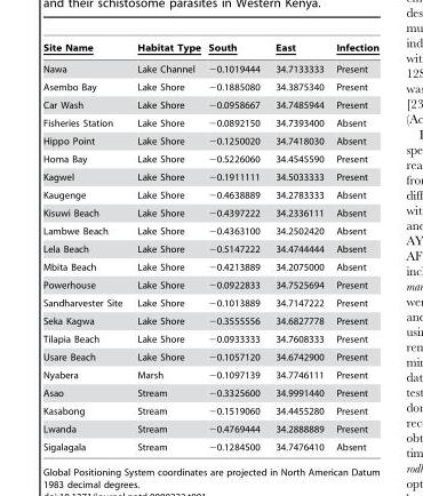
<table><thead><tr><td>Site Name</td><td>Habitat Type</td><td>South</td><td>East</td><td>Infection</td></tr></thead><tbody><tr><td>Nawa</td><td>Lake Channel</td><td>−0.1019444</td><td>34.7133333</td><td>Present</td></tr><tr><td>Asembo Bay</td><td>Lake Shore</td><td>−0.1885080</td><td>34.3875340</td><td>Present</td></tr><tr><td>Car Wash</td><td>Lake Shore</td><td>−0.0958667</td><td>34.7485944</td><td>Present</td></tr><tr><td>Fisheries Station</td><td>Lake Shore</td><td>−0.0892150</td><td>34.7393400</td><td>Absent</td></tr><tr><td>Hippo Point</td><td>Lake Shore</td><td>−0.1250020</td><td>34.7418030</td><td>Absent</td></tr><tr><td>Homa Bay</td><td>Lake Shore</td><td>−0.5226060</td><td>34.4545590</td><td>Present</td></tr><tr><td>Kagwel</td><td>Lake Shore</td><td>−0.1911111</td><td>34.5033333</td><td>Present</td></tr><tr><td>Kaugenge</td><td>Lake Shore</td><td>−0.4638889</td><td>34.2783333</td><td>Absent</td></tr><tr><td>Kisuwi Beach</td><td>Lake Shore</td><td>−0.4397222</td><td>34.2336111</td><td>Absent</td></tr><tr><td>Lambwe Beach</td><td>Lake Shore</td><td>−0.4363100</td><td>34.2502420</td><td>Absent</td></tr><tr><td>Lela Beach</td><td>Lake Shore</td><td>−0.5147222</td><td>34.4744444</td><td>Absent</td></tr><tr><td>Mbita Beach</td><td>Lake Shore</td><td>−0.4213889</td><td>34.2075000</td><td>Absent</td></tr><tr><td>Powerhouse</td><td>Lake Shore</td><td>−0.0922833</td><td>34.7525694</td><td>Present</td></tr><tr><td>Sandharvester Site</td><td>Lake Shore</td><td>−0.1013889</td><td>34.7147222</td><td>Present</td></tr><tr><td>Seka Kagwa</td><td>Lake Shore</td><td>−0.3555556</td><td>34.6827778</td><td>Present</td></tr><tr><td>Tilapia Beach</td><td>Lake Shore</td><td>−0.0933333</td><td>34.7608333</td><td>Present</td></tr><tr><td>Usare Beach</td><td>Lake Shore</td><td>−0.1057120</td><td>34.6742900</td><td>Present</td></tr><tr><td>Nyabera</td><td>Marsh</td><td>−0.1097139</td><td>34.7746111</td><td>Present</td></tr><tr><td>Asao</td><td>Stream</td><td>−0.3325600</td><td>34.9991440</td><td>Present</td></tr><tr><td>Kasabong</td><td>Stream</td><td>−0.1519060</td><td>34.4455280</td><td>Present</td></tr><tr><td>Lwanda</td><td>Stream</td><td>−0.4769444</td><td>34.2888889</td><td>Present</td></tr><tr><td>Sigalagala</td><td>Stream</td><td>−0.1284500</td><td>34.7476410</td><td>Absent</td></tr></tbody></table>